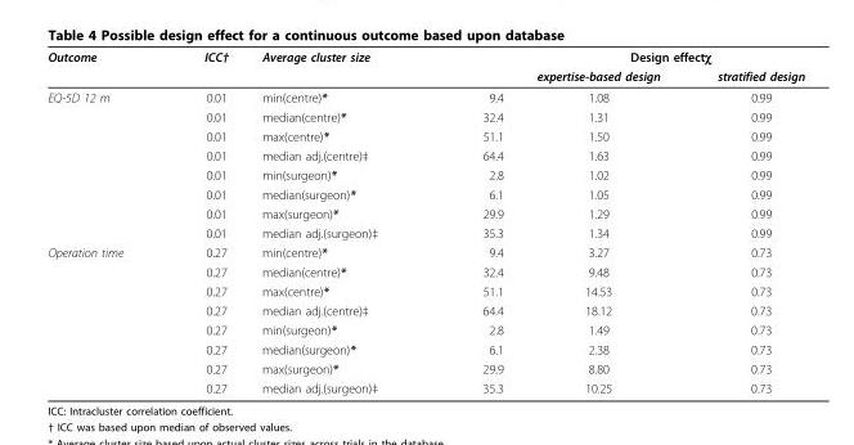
<table><thead><tr><td rowspan="2">Outcome</td><td rowspan="2">ICC†</td><td colspan="2">Average cluster size</td><td colspan="2">Design effectχ</td></tr><tr><td></td><td></td><td>expertise-based design</td><td>stratified design</td></tr></thead><tbody><tr><td rowspan="8">EQ-5D 12 m</td><td>0.01</td><td>min(centre)*</td><td>9.4</td><td>1.08</td><td>0.99</td></tr><tr><td>0.01</td><td>median(centre)*</td><td>32.4</td><td>1.31</td><td>0.99</td></tr><tr><td>0.01</td><td>max(centre)*</td><td>51.1</td><td>1.50</td><td>0.99</td></tr><tr><td>0.01</td><td>median adj.(centre)‡</td><td>64.4</td><td>1.63</td><td>0.99</td></tr><tr><td>0.01</td><td>min(surgeon)*</td><td>2.8</td><td>1.02</td><td>0.99</td></tr><tr><td>0.01</td><td>median(surgeon)*</td><td>6.1</td><td>1.05</td><td>0.99</td></tr><tr><td>0.01</td><td>max(surgeon)*</td><td>29.9</td><td>1.29</td><td>0.99</td></tr><tr><td>0.01</td><td>median adj.(surgeon)‡</td><td>35.3</td><td>1.34</td><td>0.99</td></tr><tr><td rowspan="8">Operation time</td><td>0.27</td><td>min(centre)*</td><td>9.4</td><td>3.27</td><td>0.73</td></tr><tr><td>0.27</td><td>median(centre)*</td><td>32.4</td><td>9.48</td><td>0.73</td></tr><tr><td>0.27</td><td>max(centre)*</td><td>51.1</td><td>14.53</td><td>0.73</td></tr><tr><td>0.27</td><td>median adj.(centre)‡</td><td>64.4</td><td>18.12</td><td>0.73</td></tr><tr><td>0.27</td><td>min(surgeon)*</td><td>2.8</td><td>1.49</td><td>0.73</td></tr><tr><td>0.27</td><td>median(surgeon)*</td><td>6.1</td><td>2.38</td><td>0.73</td></tr><tr><td>0.27</td><td>max(surgeon)*</td><td>29.9</td><td>8.80</td><td>0.73</td></tr><tr><td>0.27</td><td>median adj.(surgeon)‡</td><td>35.3</td><td>10.25</td><td>0.73</td></tr></tbody></table>